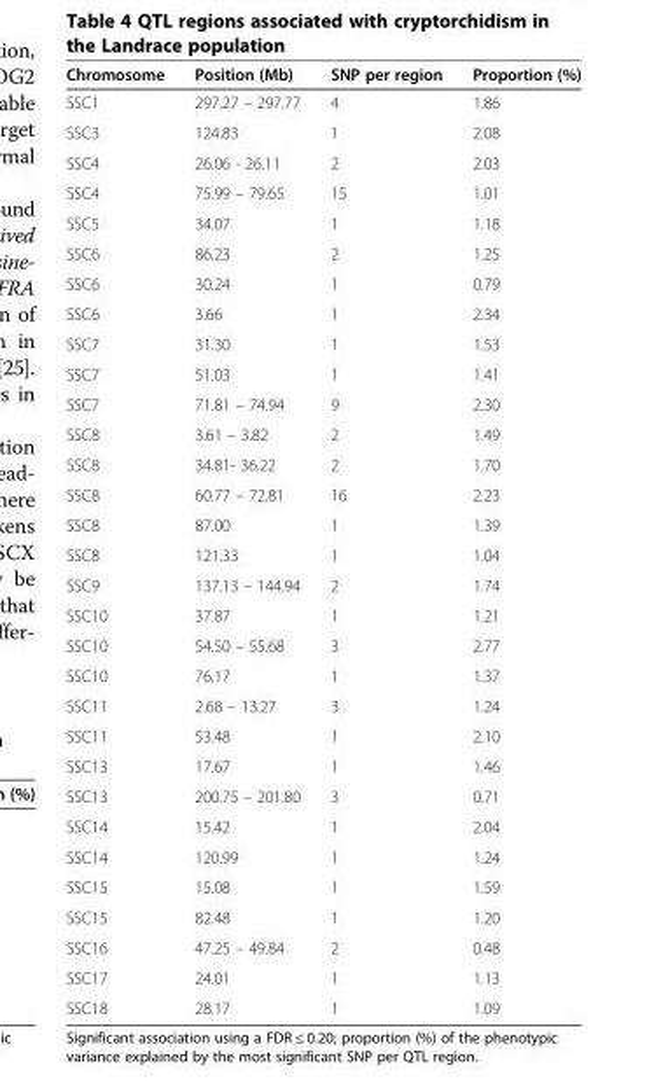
<table><thead><tr><td>Chromosome</td><td>Position (Mb)</td><td>SNP per region</td><td>Proportion (%)</td></tr></thead><tbody><tr><td>SSC1</td><td>297.27 – 297.77</td><td>4</td><td>1.86</td></tr><tr><td>SSC3</td><td>124.83</td><td>1</td><td>2.08</td></tr><tr><td>SSC4</td><td>26.06 - 26.11</td><td>2</td><td>2.03</td></tr><tr><td>SSC4</td><td>75.99 – 79.65</td><td>15</td><td>1.01</td></tr><tr><td>SSC5</td><td>34.07</td><td>1</td><td>1.18</td></tr><tr><td>SSC6</td><td>86.23</td><td>2</td><td>1.25</td></tr><tr><td>SSC6</td><td>30.24</td><td>1</td><td>0.79</td></tr><tr><td>SSC6</td><td>3.66</td><td>1</td><td>2.34</td></tr><tr><td>SSC7</td><td>31.30</td><td>1</td><td>1.53</td></tr><tr><td>SSC7</td><td>51.03</td><td>1</td><td>1.41</td></tr><tr><td>SSC7</td><td>71.81 – 74.94</td><td>9</td><td>2.30</td></tr><tr><td>SSC8</td><td>3.61 – 3.82</td><td>2</td><td>1.49</td></tr><tr><td>SSC8</td><td>34.81- 36.22</td><td>2</td><td>1.70</td></tr><tr><td>SSC8</td><td>60.77 – 72.81</td><td>16</td><td>2.23</td></tr><tr><td>SSC8</td><td>87.00</td><td>1</td><td>1.39</td></tr><tr><td>SSC8</td><td>121.33</td><td>1</td><td>1.04</td></tr><tr><td>SSC9</td><td>137.13 – 144.94</td><td>2</td><td>1.74</td></tr><tr><td>SSC10</td><td>37.87</td><td>1</td><td>1.21</td></tr><tr><td>SSC10</td><td>54.50 – 55.68</td><td>3</td><td>2.77</td></tr><tr><td>SSC10</td><td>76.17</td><td>1</td><td>1.37</td></tr><tr><td>SSC11</td><td>2.68 – 13.27</td><td>3</td><td>1.24</td></tr><tr><td>SSC11</td><td>53.48</td><td>1</td><td>2.10</td></tr><tr><td>SSC13</td><td>17.67</td><td>1</td><td>1.46</td></tr><tr><td>SSC13</td><td>200.75 – 201.80</td><td>3</td><td>0.71</td></tr><tr><td>SSC14</td><td>15.42</td><td>1</td><td>2.04</td></tr><tr><td>SSC14</td><td>120.99</td><td>1</td><td>1.24</td></tr><tr><td>SSC15</td><td>15.08</td><td>1</td><td>1.59</td></tr><tr><td>SSC15</td><td>82.48</td><td>1</td><td>1.20</td></tr><tr><td>SSC16</td><td>47.25 – 49.84</td><td>2</td><td>0.48</td></tr><tr><td>SSC17</td><td>24.01</td><td>1</td><td>1.13</td></tr><tr><td>SSC18</td><td>28.17</td><td>1</td><td>1.09</td></tr></tbody></table>